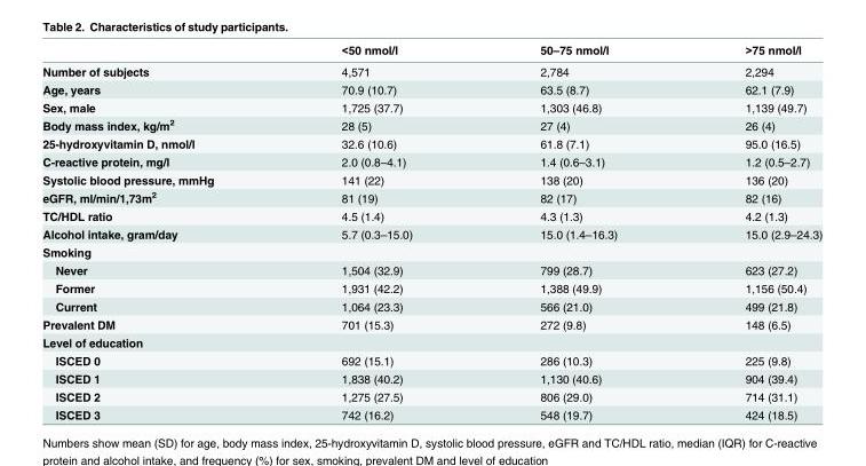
<table><thead><tr><td></td><td>&lt;50 nmol/l</td><td>50–75 nmol/l</td><td>&gt;75 nmol/l</td></tr></thead><tbody><tr><td>Number of subjects</td><td>4,571</td><td>2,784</td><td>2,294</td></tr><tr><td>Age, years</td><td>70.9 (10.7)</td><td>63.5 (8.7)</td><td>62.1 (7.9)</td></tr><tr><td>Sex, male</td><td>1,725 (37.7)</td><td>1,303 (46.8)</td><td>1,139 (49.7)</td></tr><tr><td>Body mass index, kg/m<sup>2</sup></td><td>28 (5)</td><td>27 (4)</td><td>26 (4)</td></tr><tr><td>25-hydroxyvitamin D, nmol/l</td><td>32.6 (10.6)</td><td>61.8 (7.1)</td><td>95.0 (16.5)</td></tr><tr><td>C-reactive protein, mg/l</td><td>2.0 (0.8–4.1)</td><td>1.4 (0.6–3.1)</td><td>1.2 (0.5–2.7)</td></tr><tr><td>Systolic blood pressure, mmHg</td><td>141 (22)</td><td>138 (20)</td><td>136 (20)</td></tr><tr><td>eGFR, ml/min/1,73m<sup>2</sup></td><td>81 (19)</td><td>82 (17)</td><td>82 (16)</td></tr><tr><td>TC/HDL ratio</td><td>4.5 (1.4)</td><td>4.3 (1.3)</td><td>4.2 (1.3)</td></tr><tr><td>Alcohol intake, gram/day</td><td>5.7 (0.3–15.0)</td><td>15.0 (1.4–16.3)</td><td>15.0 (2.9–24.3)</td></tr><tr><td colspan="4">Smoking</td></tr><tr><td>Never</td><td>1,504 (32.9)</td><td>799 (28.7)</td><td>623 (27.2)</td></tr><tr><td>Former</td><td>1,931 (42.2)</td><td>1,388 (49.9)</td><td>1,156 (50.4)</td></tr><tr><td>Current</td><td>1,064 (23.3)</td><td>566 (21.0)</td><td>499 (21.8)</td></tr><tr><td>Prevalent DM</td><td>701 (15.3)</td><td>272 (9.8)</td><td>148 (6.5)</td></tr><tr><td colspan="4">Level of education</td></tr><tr><td>ISCED 0</td><td>692 (15.1)</td><td>286 (10.3)</td><td>225 (9.8)</td></tr><tr><td>ISCED 1</td><td>1,838 (40.2)</td><td>1,130 (40.6)</td><td>904 (39.4)</td></tr><tr><td>ISCED 2</td><td>1,275 (27.5)</td><td>806 (29.0)</td><td>714 (31.1)</td></tr><tr><td>ISCED 3</td><td>742 (16.2)</td><td>548 (19.7)</td><td>424 (18.5)</td></tr></tbody></table>